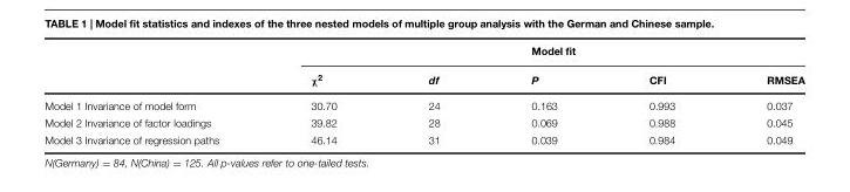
<table><thead><tr><td rowspan="2"></td><td colspan="5">Model fit</td></tr><tr><td>χ<sup>2</sup></td><td>df</td><td>P</td><td>CFI</td><td>RMSEA</td></tr></thead><tbody><tr><td>Model 1 Invariance of model form</td><td>30.70</td><td>24</td><td>0.163</td><td>0.993</td><td>0.037</td></tr><tr><td>Model 2 Invariance of factor loadings</td><td>39.82</td><td>28</td><td>0.069</td><td>0.988</td><td>0.045</td></tr><tr><td>Model 3 Invariance of regression paths</td><td>46.14</td><td>31</td><td>0.039</td><td>0.984</td><td>0.049</td></tr></tbody></table>